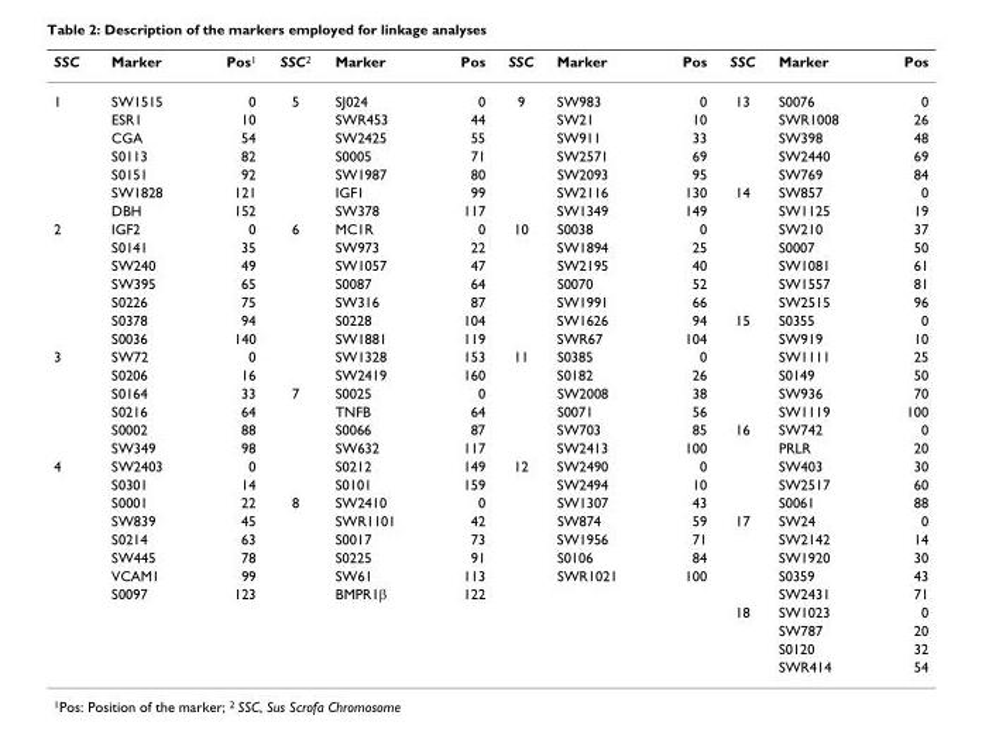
<table><thead><tr><td>SSC</td><td>Marker</td><td>Pos<sup>1</sup></td><td>SSC<sup>2</sup></td><td>Marker</td><td>Pos</td><td>SSC</td><td>Marker</td><td>Pos</td><td>SSC</td><td>Marker</td><td>Pos</td></tr></thead><tbody><tr><td rowspan="7">1</td><td>SW1515</td><td>0</td><td>5</td><td>SJ024</td><td>0</td><td>9</td><td>SW983</td><td>0</td><td>13</td><td>S0076</td><td>0</td></tr><tr><td>ESR1</td><td>10</td><td></td><td>SWR453</td><td>44</td><td></td><td>SW21</td><td>10</td><td></td><td>SWR1008</td><td>26</td></tr><tr><td>CGA</td><td>54</td><td></td><td>SW2425</td><td>55</td><td></td><td>SW911</td><td>33</td><td></td><td>SW398</td><td>48</td></tr><tr><td>S0113</td><td>82</td><td></td><td>S0005</td><td>71</td><td></td><td>SW2571</td><td>69</td><td></td><td>SW2440</td><td>69</td></tr><tr><td>S0151</td><td>92</td><td></td><td>SW1987</td><td>80</td><td></td><td>SW2093</td><td>95</td><td></td><td>SW769</td><td>84</td></tr><tr><td>SW1828</td><td>121</td><td></td><td>IGF1</td><td>99</td><td></td><td>SW2116</td><td>130</td><td>14</td><td>SW857</td><td>0</td></tr><tr><td>DBH</td><td>152</td><td></td><td>SW378</td><td>117</td><td></td><td>SW1349</td><td>149</td><td></td><td>SW1125</td><td>19</td></tr><tr><td rowspan="7">2</td><td>IGF2</td><td>0</td><td>6</td><td>MC1R</td><td>0</td><td>10</td><td>S0038</td><td>0</td><td></td><td>SW210</td><td>37</td></tr><tr><td>S0141</td><td>35</td><td></td><td>SW973</td><td>22</td><td></td><td>SW1894</td><td>25</td><td></td><td>S0007</td><td>50</td></tr><tr><td>SW240</td><td>49</td><td></td><td>SW1057</td><td>47</td><td></td><td>SW2195</td><td>40</td><td></td><td>SW1081</td><td>61</td></tr><tr><td>SW395</td><td>65</td><td></td><td>S0087</td><td>64</td><td></td><td>S0070</td><td>52</td><td></td><td>SW1557</td><td>81</td></tr><tr><td>S0226</td><td>75</td><td></td><td>SW316</td><td>87</td><td></td><td>SW1991</td><td>66</td><td></td><td>SW2515</td><td>96</td></tr><tr><td>S0378</td><td>94</td><td></td><td>S0228</td><td>104</td><td></td><td>SW1626</td><td>94</td><td>15</td><td>S0355</td><td>0</td></tr><tr><td>S0036</td><td>140</td><td></td><td>SW1881</td><td>119</td><td></td><td>SWR67</td><td>104</td><td></td><td>SW919</td><td>10</td></tr><tr><td rowspan="6">3</td><td>SW72</td><td>0</td><td></td><td>SW1328</td><td>153</td><td>11</td><td>S0385</td><td>0</td><td></td><td>SW1111</td><td>25</td></tr><tr><td>S0206</td><td>16</td><td></td><td>SW2419</td><td>160</td><td></td><td>S0182</td><td>26</td><td></td><td>S0149</td><td>50</td></tr><tr><td>S0164</td><td>33</td><td>7</td><td>S0025</td><td>0</td><td></td><td>SW2008</td><td>38</td><td></td><td>SW936</td><td>70</td></tr><tr><td>S0216</td><td>64</td><td></td><td>TNFB</td><td>64</td><td></td><td>S0071</td><td>56</td><td></td><td>SW1119</td><td>100</td></tr><tr><td>S0002</td><td>88</td><td></td><td>S0066</td><td>87</td><td></td><td>SW703</td><td>85</td><td>16</td><td>SW742</td><td>0</td></tr><tr><td>SW349</td><td>98</td><td></td><td>SW632</td><td>117</td><td></td><td>SW2413</td><td>100</td><td></td><td>PRLR</td><td>20</td></tr><tr><td rowspan="12">4</td><td>SW2403</td><td>0</td><td></td><td>S0212</td><td>149</td><td>12</td><td>SW2490</td><td>0</td><td></td><td>SW403</td><td>30</td></tr><tr><td>S0301</td><td>14</td><td></td><td>S0101</td><td>159</td><td></td><td>SW2494</td><td>10</td><td></td><td>SW2517</td><td>60</td></tr><tr><td>S0001</td><td>22</td><td>8</td><td>SW2410</td><td>0</td><td></td><td>SW1307</td><td>43</td><td></td><td>S0061</td><td>88</td></tr><tr><td>SW839</td><td>45</td><td></td><td>SWR1101</td><td>42</td><td></td><td>SW874</td><td>59</td><td>17</td><td>SW24</td><td>0</td></tr><tr><td>S0214</td><td>63</td><td></td><td>S0017</td><td>73</td><td></td><td>SW1956</td><td>71</td><td></td><td>SW2142</td><td>14</td></tr><tr><td>SW445</td><td>78</td><td></td><td>S0225</td><td>91</td><td></td><td>S0106</td><td>84</td><td></td><td>SW1920</td><td>30</td></tr><tr><td>VCAM1</td><td>99</td><td></td><td>SW61</td><td>113</td><td></td><td>SWR1021</td><td>100</td><td></td><td>S0359</td><td>43</td></tr><tr><td>S0097</td><td>123</td><td></td><td>BMPR1β</td><td>122</td><td></td><td></td><td></td><td></td><td>SW2431</td><td>71</td></tr><tr><td></td><td></td><td></td><td></td><td></td><td></td><td></td><td></td><td>18</td><td>SW1023</td><td>0</td></tr><tr><td></td><td></td><td></td><td></td><td></td><td></td><td></td><td></td><td></td><td>SW787</td><td>20</td></tr><tr><td></td><td></td><td></td><td></td><td></td><td></td><td></td><td></td><td></td><td>S0120</td><td>32</td></tr><tr><td></td><td></td><td></td><td></td><td></td><td></td><td></td><td></td><td></td><td>SWR414</td><td>54</td></tr></tbody></table>